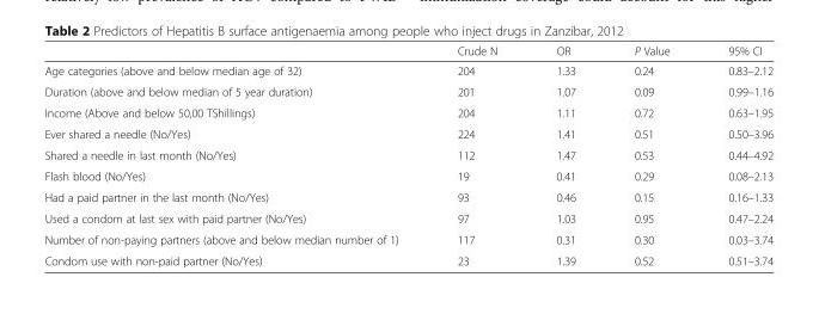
<table><thead><tr><td></td><td>Crude N</td><td>OR</td><td>P Value</td><td>95% CI</td></tr></thead><tbody><tr><td>Age categories (above and below median age of 32)</td><td>204</td><td>1.33</td><td>0.24</td><td>0.83–2.12</td></tr><tr><td>Duration (above and below median of 5 year duration)</td><td>201</td><td>1.07</td><td>0.09</td><td>0.99–1.16</td></tr><tr><td>Income (Above and below 50,00 TShillings)</td><td>204</td><td>1.11</td><td>0.72</td><td>0.63–1.95</td></tr><tr><td>Ever shared a needle (No/Yes)</td><td>224</td><td>1.41</td><td>0.51</td><td>0.50–3.96</td></tr><tr><td>Shared a needle in last month (No/Yes)</td><td>112</td><td>1.47</td><td>0.53</td><td>0.44–4.92</td></tr><tr><td>Flash blood (No/Yes)</td><td>19</td><td>0.41</td><td>0.29</td><td>0.08–2.13</td></tr><tr><td>Had a paid partner in the last month (No/Yes)</td><td>93</td><td>0.46</td><td>0.15</td><td>0.16–1.33</td></tr><tr><td>Used a condom at last sex with paid partner (No/Yes)</td><td>97</td><td>1.03</td><td>0.95</td><td>0.47–2.24</td></tr><tr><td>Number of non-paying partners (above and below median number of 1)</td><td>117</td><td>0.31</td><td>0.30</td><td>0.03–3.74</td></tr><tr><td>Condom use with non-paid partner (No/Yes)</td><td>23</td><td>1.39</td><td>0.52</td><td>0.51–3.74</td></tr></tbody></table>